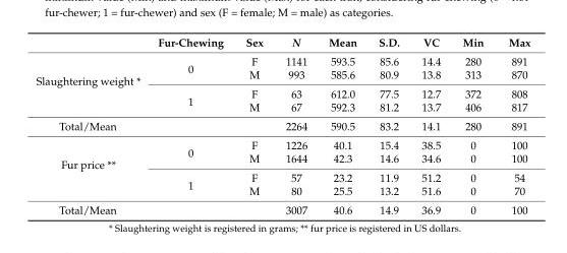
<table><thead><tr><td></td><td>Fur-Chewing</td><td>Sex</td><td>N</td><td>Mean</td><td>S.D.</td><td>VC</td><td>Min</td><td>Max</td></tr></thead><tbody><tr><td rowspan="4">Slaughtering weight *</td><td rowspan="2">0</td><td>F</td><td>1141</td><td>593.5</td><td>85.6</td><td>14.4</td><td>280</td><td>891</td></tr><tr><td>M</td><td>993</td><td>585.6</td><td>80.9</td><td>13.8</td><td>313</td><td>870</td></tr><tr><td rowspan="2">1</td><td>F</td><td>63</td><td>612.0</td><td>77.5</td><td>12.7</td><td>372</td><td>808</td></tr><tr><td>M</td><td>67</td><td>592.3</td><td>81.2</td><td>13.7</td><td>406</td><td>817</td></tr><tr><td>Total/Mean</td><td></td><td></td><td>2264</td><td>590.5</td><td>83.2</td><td>14.1</td><td>280</td><td>891</td></tr><tr><td rowspan="4">Fur price **</td><td rowspan="2">0</td><td>F</td><td>1226</td><td>40.1</td><td>15.4</td><td>38.5</td><td>0</td><td>100</td></tr><tr><td>M</td><td>1644</td><td>42.3</td><td>14.6</td><td>34.6</td><td>0</td><td>100</td></tr><tr><td rowspan="2">1</td><td>F</td><td>57</td><td>23.2</td><td>11.9</td><td>51.2</td><td>0</td><td>54</td></tr><tr><td>M</td><td>80</td><td>25.5</td><td>13.2</td><td>51.6</td><td>0</td><td>70</td></tr><tr><td>Total/Mean</td><td></td><td></td><td>3007</td><td>40.6</td><td>14.9</td><td>36.9</td><td>0</td><td>100</td></tr></tbody></table>